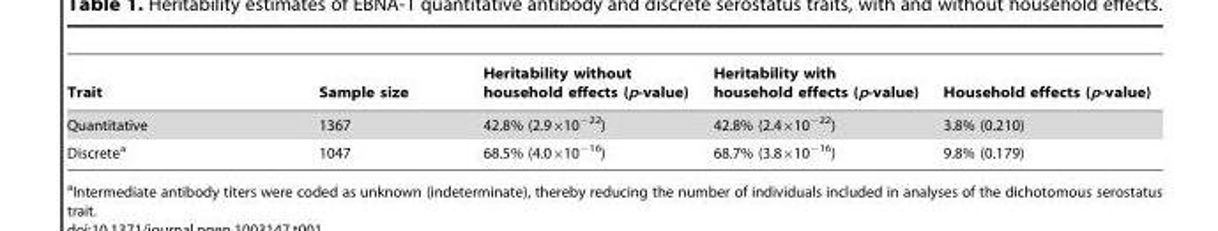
<table><thead><tr><td>Trait</td><td>Sample size</td><td>Heritability without household effects (p-value)</td><td>Heritability with household effects (p-value)</td><td>Household effects (p-value)</td></tr></thead><tbody><tr><td>Quantitative</td><td>1367</td><td>42.8% (2.9×10<sup>−22</sup>)</td><td>42.8% (2.4×10<sup>−22</sup>)</td><td>3.8% (0.210)</td></tr><tr><td>Discrete<sup>a</sup></td><td>1047</td><td>68.5% (4.0×10<sup>−16</sup>)</td><td>68.7% (3.8×10<sup>−16</sup>)</td><td>9.8% (0.179)</td></tr></tbody></table>